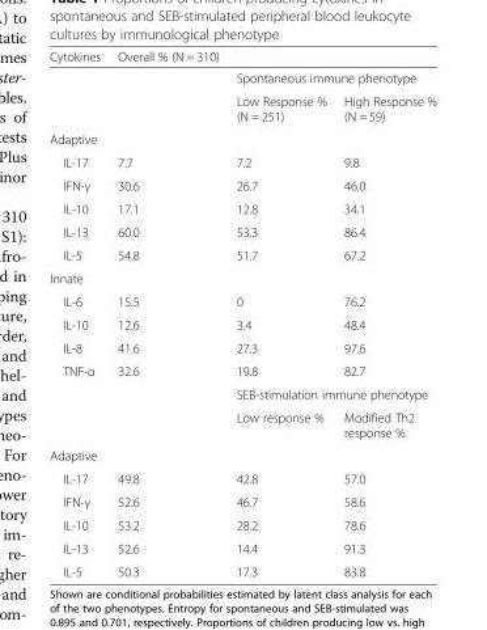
<table><thead><tr><td>Cytokines</td><td>Overall % (N = 310)</td><td></td><td></td></tr></thead><tbody><tr><td rowspan="2"></td><td rowspan="2"></td><td colspan="2">Spontaneous immune phenotype</td></tr><tr><td>Low Response % (N = 251)</td><td>High Response % (N = 59)</td></tr><tr><td colspan="4">Adaptive</td></tr><tr><td>IL-17</td><td>7.7</td><td>7.2</td><td>9.8</td></tr><tr><td>IFN-γ</td><td>30.6</td><td>26.7</td><td>46.0</td></tr><tr><td>IL-10</td><td>17.1</td><td>12.8</td><td>34.1</td></tr><tr><td>IL-13</td><td>60.0</td><td>53.3</td><td>86.4</td></tr><tr><td>IL-5</td><td>54.8</td><td>51.7</td><td>67.2</td></tr><tr><td colspan="4">Innate</td></tr><tr><td>IL-6</td><td>15.5</td><td>0</td><td>76.2</td></tr><tr><td>IL-10</td><td>12.6</td><td>3.4</td><td>48.4</td></tr><tr><td>IL-8</td><td>41.6</td><td>27.3</td><td>97.6</td></tr><tr><td>TNF-α</td><td>32.6</td><td>19.8</td><td>82.7</td></tr><tr><td rowspan="2" colspan="2"></td><td colspan="2">SEB-stimulation immune phenotype</td></tr><tr><td>Low response %</td><td>Modified Th2 response %</td></tr><tr><td colspan="4">Adaptive</td></tr><tr><td>IL-17</td><td>49.8</td><td>42.8</td><td>57.0</td></tr><tr><td>IFN-γ</td><td>52.6</td><td>46.7</td><td>58.6</td></tr><tr><td>IL-10</td><td>53.2</td><td>28.2</td><td>78.6</td></tr><tr><td>IL-13</td><td>52.6</td><td>14.4</td><td>91.3</td></tr><tr><td>IL-5</td><td>50.3</td><td>17.3</td><td>83.8</td></tr></tbody></table>